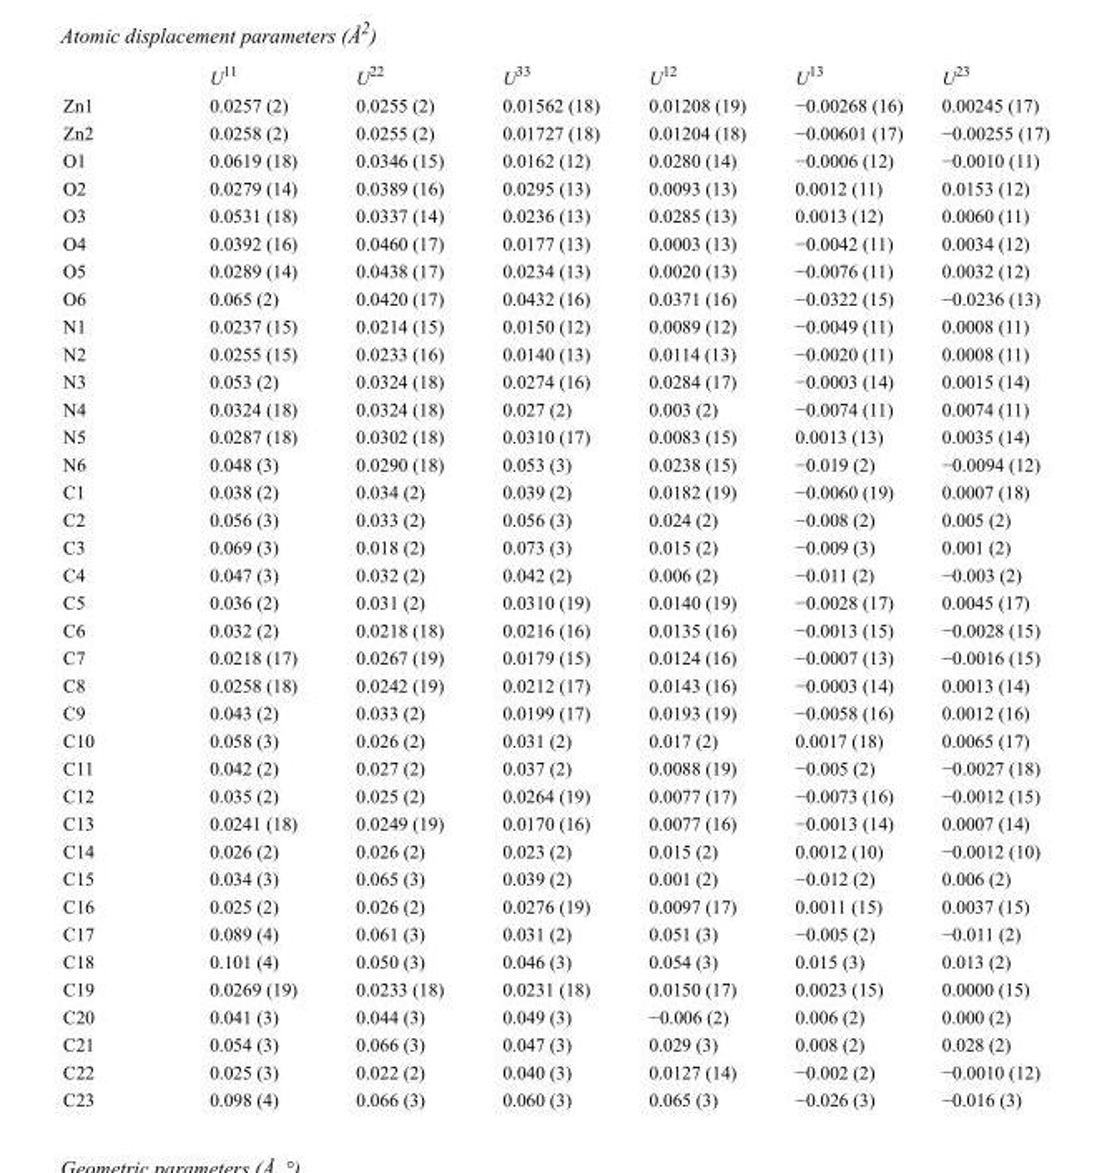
<table><thead><tr><td></td><td>U<sup>11</sup></td><td>U<sup>22</sup></td><td>U<sup>33</sup></td><td>U<sup>12</sup></td><td>U<sup>13</sup></td><td>U<sup>23</sup></td></tr></thead><tbody><tr><td>Zn1</td><td>0.0257 (2)</td><td>0.0255 (2)</td><td>0.01562 (18)</td><td>0.01208 (19)</td><td>−0.00268 (16)</td><td>0.00245 (17)</td></tr><tr><td>Zn2</td><td>0.0258 (2)</td><td>0.0255 (2)</td><td>0.01727 (18)</td><td>0.01204 (18)</td><td>−0.00601 (17)</td><td>−0.00255 (17)</td></tr><tr><td>O1</td><td>0.0619 (18)</td><td>0.0346 (15)</td><td>0.0162 (12)</td><td>0.0280 (14)</td><td>−0.0006 (12)</td><td>−0.0010 (11)</td></tr><tr><td>O2</td><td>0.0279 (14)</td><td>0.0389 (16)</td><td>0.0295 (13)</td><td>0.0093 (13)</td><td>0.0012 (11)</td><td>0.0153 (12)</td></tr><tr><td>O3</td><td>0.0531 (18)</td><td>0.0337 (14)</td><td>0.0236 (13)</td><td>0.0285 (13)</td><td>0.0013 (12)</td><td>0.0060 (11)</td></tr><tr><td>O4</td><td>0.0392 (16)</td><td>0.0460 (17)</td><td>0.0177 (13)</td><td>0.0003 (13)</td><td>−0.0042 (11)</td><td>0.0034 (12)</td></tr><tr><td>O5</td><td>0.0289 (14)</td><td>0.0438 (17)</td><td>0.0234 (13)</td><td>0.0020 (13)</td><td>−0.0076 (11)</td><td>0.0032 (12)</td></tr><tr><td>O6</td><td>0.065 (2)</td><td>0.0420 (17)</td><td>0.0432 (16)</td><td>0.0371 (16)</td><td>−0.0322 (15)</td><td>−0.0236 (13)</td></tr><tr><td>N1</td><td>0.0237 (15)</td><td>0.0214 (15)</td><td>0.0150 (12)</td><td>0.0089 (12)</td><td>−0.0049 (11)</td><td>0.0008 (11)</td></tr><tr><td>N2</td><td>0.0255 (15)</td><td>0.0233 (16)</td><td>0.0140 (13)</td><td>0.0114 (13)</td><td>−0.0020 (11)</td><td>0.0008 (11)</td></tr><tr><td>N3</td><td>0.053 (2)</td><td>0.0324 (18)</td><td>0.0274 (16)</td><td>0.0284 (17)</td><td>−0.0003 (14)</td><td>0.0015 (14)</td></tr><tr><td>N4</td><td>0.0324 (18)</td><td>0.0324 (18)</td><td>0.027 (2)</td><td>0.003 (2)</td><td>−0.0074 (11)</td><td>0.0074 (11)</td></tr><tr><td>N5</td><td>0.0287 (18)</td><td>0.0302 (18)</td><td>0.0310 (17)</td><td>0.0083 (15)</td><td>0.0013 (13)</td><td>0.0035 (14)</td></tr><tr><td>N6</td><td>0.048 (3)</td><td>0.0290 (18)</td><td>0.053 (3)</td><td>0.0238 (15)</td><td>−0.019 (2)</td><td>−0.0094 (12)</td></tr><tr><td>C1</td><td>0.038 (2)</td><td>0.034 (2)</td><td>0.039 (2)</td><td>0.0182 (19)</td><td>−0.0060 (19)</td><td>0.0007 (18)</td></tr><tr><td>C2</td><td>0.056 (3)</td><td>0.033 (2)</td><td>0.056 (3)</td><td>0.024 (2)</td><td>−0.008 (2)</td><td>0.005 (2)</td></tr><tr><td>C3</td><td>0.069 (3)</td><td>0.018 (2)</td><td>0.073 (3)</td><td>0.015 (2)</td><td>−0.009 (3)</td><td>0.001 (2)</td></tr><tr><td>C4</td><td>0.047 (3)</td><td>0.032 (2)</td><td>0.042 (2)</td><td>0.006 (2)</td><td>−0.011 (2)</td><td>−0.003 (2)</td></tr><tr><td>C5</td><td>0.036 (2)</td><td>0.031 (2)</td><td>0.0310 (19)</td><td>0.0140 (19)</td><td>−0.0028 (17)</td><td>0.0045 (17)</td></tr><tr><td>C6</td><td>0.032 (2)</td><td>0.0218 (18)</td><td>0.0216 (16)</td><td>0.0135 (16)</td><td>−0.0013 (15)</td><td>−0.0028 (15)</td></tr><tr><td>C7</td><td>0.0218 (17)</td><td>0.0267 (19)</td><td>0.0179 (15)</td><td>0.0124 (16)</td><td>−0.0007 (13)</td><td>−0.0016 (15)</td></tr><tr><td>C8</td><td>0.0258 (18)</td><td>0.0242 (19)</td><td>0.0212 (17)</td><td>0.0143 (16)</td><td>−0.0003 (14)</td><td>0.0013 (14)</td></tr><tr><td>C9</td><td>0.043 (2)</td><td>0.033 (2)</td><td>0.0199 (17)</td><td>0.0193 (19)</td><td>−0.0058 (16)</td><td>0.0012 (16)</td></tr><tr><td>C10</td><td>0.058 (3)</td><td>0.026 (2)</td><td>0.031 (2)</td><td>0.017 (2)</td><td>0.0017 (18)</td><td>0.0065 (17)</td></tr><tr><td>C11</td><td>0.042 (2)</td><td>0.027 (2)</td><td>0.037 (2)</td><td>0.0088 (19)</td><td>−0.005 (2)</td><td>−0.0027 (18)</td></tr><tr><td>C12</td><td>0.035 (2)</td><td>0.025 (2)</td><td>0.0264 (19)</td><td>0.0077 (17)</td><td>−0.0073 (16)</td><td>−0.0012 (15)</td></tr><tr><td>C13</td><td>0.0241 (18)</td><td>0.0249 (19)</td><td>0.0170 (16)</td><td>0.0077 (16)</td><td>−0.0013 (14)</td><td>0.0007 (14)</td></tr><tr><td>C14</td><td>0.026 (2)</td><td>0.026 (2)</td><td>0.023 (2)</td><td>0.015 (2)</td><td>0.0012 (10)</td><td>−0.0012 (10)</td></tr><tr><td>C15</td><td>0.034 (3)</td><td>0.065 (3)</td><td>0.039 (2)</td><td>0.001 (2)</td><td>−0.012 (2)</td><td>0.006 (2)</td></tr><tr><td>C16</td><td>0.025 (2)</td><td>0.026 (2)</td><td>0.0276 (19)</td><td>0.0097 (17)</td><td>0.0011 (15)</td><td>0.0037 (15)</td></tr><tr><td>C17</td><td>0.089 (4)</td><td>0.061 (3)</td><td>0.031 (2)</td><td>0.051 (3)</td><td>−0.005 (2)</td><td>−0.011 (2)</td></tr><tr><td>C18</td><td>0.101 (4)</td><td>0.050 (3)</td><td>0.046 (3)</td><td>0.054 (3)</td><td>0.015 (3)</td><td>0.013 (2)</td></tr><tr><td>C19</td><td>0.0269 (19)</td><td>0.0233 (18)</td><td>0.0231 (18)</td><td>0.0150 (17)</td><td>0.0023 (15)</td><td>0.0000 (15)</td></tr><tr><td>C20</td><td>0.041 (3)</td><td>0.044 (3)</td><td>0.049 (3)</td><td>−0.006 (2)</td><td>0.006 (2)</td><td>0.000 (2)</td></tr><tr><td>C21</td><td>0.054 (3)</td><td>0.066 (3)</td><td>0.047 (3)</td><td>0.029 (3)</td><td>0.008 (2)</td><td>0.028 (2)</td></tr><tr><td>C22</td><td>0.025 (3)</td><td>0.022 (2)</td><td>0.040 (3)</td><td>0.0127 (14)</td><td>−0.002 (2)</td><td>−0.0010 (12)</td></tr><tr><td>C23</td><td>0.098 (4)</td><td>0.066 (3)</td><td>0.060 (3)</td><td>0.065 (3)</td><td>−0.026 (3)</td><td>−0.016 (3)</td></tr></tbody></table>